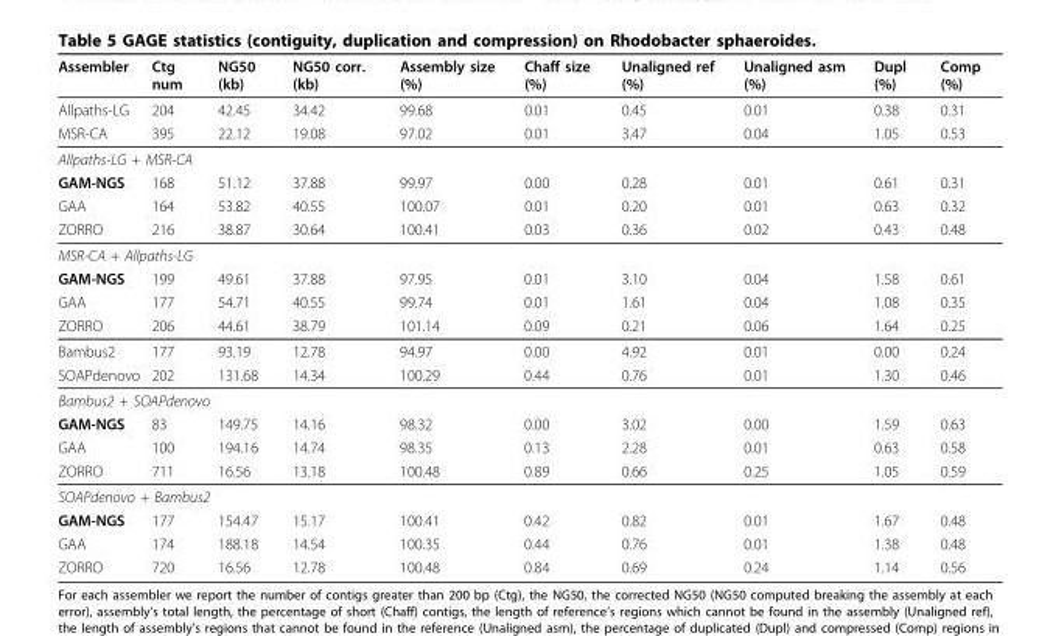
<table><thead><tr><td>Assembler</td><td>Ctg num</td><td>NG50 (kb)</td><td>NG50 corr. (kb)</td><td>Assembly size (%)</td><td>Chaff size (%)</td><td>Unaligned ref (%)</td><td>Unaligned asm (%)</td><td>Dupl (%)</td><td>Comp (%)</td></tr></thead><tbody><tr><td>Allpaths-LG</td><td>204</td><td>42.45</td><td>34.42</td><td>99.68</td><td>0.01</td><td>0.45</td><td>0.01</td><td>0.38</td><td>0.31</td></tr><tr><td>MSR-CA</td><td>395</td><td>22.12</td><td>19.08</td><td>97.02</td><td>0.01</td><td>3.47</td><td>0.04</td><td>1.05</td><td>0.53</td></tr><tr><td colspan="10">Allpaths-LG + MSR-CA</td></tr><tr><td>GAM-NGS</td><td>168</td><td>51.12</td><td>37.88</td><td>99.97</td><td>0.00</td><td>0.28</td><td>0.01</td><td>0.61</td><td>0.31</td></tr><tr><td>GAA</td><td>164</td><td>53.82</td><td>40.55</td><td>100.07</td><td>0.01</td><td>0.20</td><td>0.01</td><td>0.63</td><td>0.32</td></tr><tr><td>ZORRO</td><td>216</td><td>38.87</td><td>30.64</td><td>100.41</td><td>0.03</td><td>0.36</td><td>0.02</td><td>0.43</td><td>0.48</td></tr><tr><td colspan="10">MSR-CA + Allpaths-LG</td></tr><tr><td>GAM-NGS</td><td>199</td><td>49.61</td><td>37.88</td><td>97.95</td><td>0.01</td><td>3.10</td><td>0.04</td><td>1.58</td><td>0.61</td></tr><tr><td>GAA</td><td>177</td><td>54.71</td><td>40.55</td><td>99.74</td><td>0.01</td><td>1.61</td><td>0.04</td><td>1.08</td><td>0.35</td></tr><tr><td>ZORRO</td><td>206</td><td>44.61</td><td>38.79</td><td>101.14</td><td>0.09</td><td>0.21</td><td>0.06</td><td>1.64</td><td>0.25</td></tr><tr><td>Bambus2</td><td>177</td><td>93.19</td><td>12.78</td><td>94.97</td><td>0.00</td><td>4.92</td><td>0.01</td><td>0.00</td><td>0.24</td></tr><tr><td>SOAPdenovo</td><td>202</td><td>131.68</td><td>14.34</td><td>100.29</td><td>0.44</td><td>0.76</td><td>0.01</td><td>1.30</td><td>0.46</td></tr><tr><td colspan="10">Bambus2 + SOAPdenovo</td></tr><tr><td>GAM-NGS</td><td>83</td><td>149.75</td><td>14.16</td><td>98.32</td><td>0.00</td><td>3.02</td><td>0.00</td><td>1.59</td><td>0.63</td></tr><tr><td>GAA</td><td>100</td><td>194.16</td><td>14.74</td><td>98.35</td><td>0.13</td><td>2.28</td><td>0.01</td><td>0.63</td><td>0.58</td></tr><tr><td>ZORRO</td><td>711</td><td>16.56</td><td>13.18</td><td>100.48</td><td>0.89</td><td>0.66</td><td>0.25</td><td>1.05</td><td>0.59</td></tr><tr><td colspan="10">SOAPdenovo + Bambus2</td></tr><tr><td>GAM-NGS</td><td>177</td><td>154.47</td><td>15.17</td><td>100.41</td><td>0.42</td><td>0.82</td><td>0.01</td><td>1.67</td><td>0.48</td></tr><tr><td>GAA</td><td>174</td><td>188.18</td><td>14.54</td><td>100.35</td><td>0.44</td><td>0.76</td><td>0.01</td><td>1.38</td><td>0.48</td></tr><tr><td>ZORRO</td><td>720</td><td>16.56</td><td>12.78</td><td>100.48</td><td>0.84</td><td>0.69</td><td>0.24</td><td>1.14</td><td>0.56</td></tr></tbody></table>